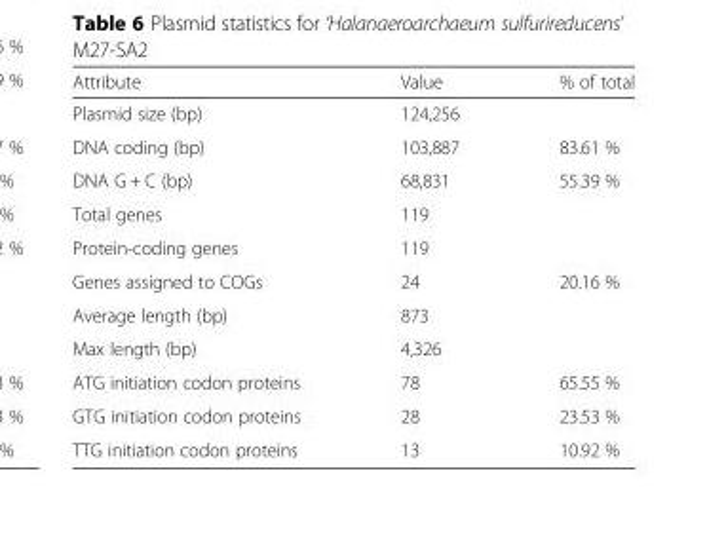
<table><thead><tr><td>Attribute</td><td>Value</td><td>% of total</td></tr></thead><tbody><tr><td>Plasmid size (bp)</td><td>124,256</td><td></td></tr><tr><td>DNA coding (bp)</td><td>103,887</td><td>83.61 %</td></tr><tr><td>DNA G + C (bp)</td><td>68,831</td><td>55.39 %</td></tr><tr><td>Total genes</td><td>119</td><td></td></tr><tr><td>Protein-coding genes</td><td>119</td><td></td></tr><tr><td>Genes assigned to COGs</td><td>24</td><td>20.16 %</td></tr><tr><td>Average length (bp)</td><td>873</td><td></td></tr><tr><td>Max length (bp)</td><td>4,326</td><td></td></tr><tr><td>ATG initiation codon proteins</td><td>78</td><td>65.55 %</td></tr><tr><td>GTG initiation codon proteins</td><td>28</td><td>23.53 %</td></tr><tr><td>TTG initiation codon proteins</td><td>13</td><td>10.92 %</td></tr></tbody></table>